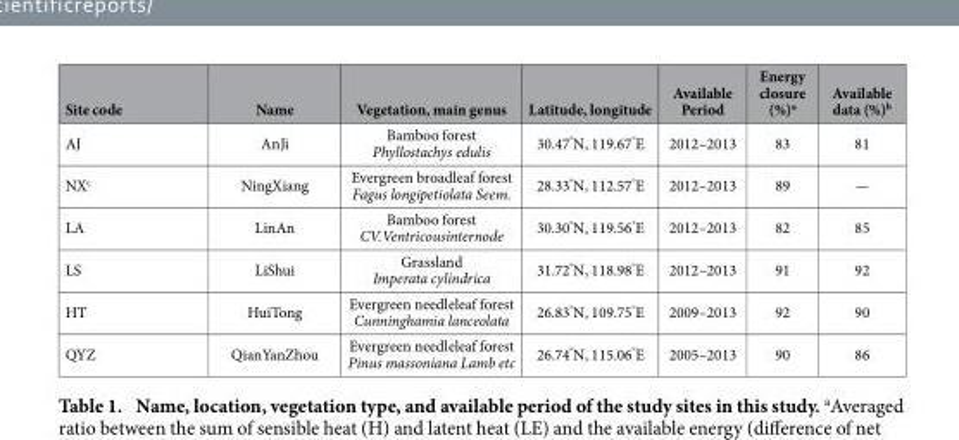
<table><thead><tr><td>Site code</td><td>Name</td><td>Vegetation, main genus</td><td>Latitude, longitude</td><td>Available Period</td><td>Energy closure (%)<sup>a</sup></td><td>Available data (%)<sup>b</sup></td></tr></thead><tbody><tr><td>AJ</td><td>AnJi</td><td>Bamboo forest Phyllostachys edulis</td><td>30.47<sup>°</sup>N, 119.67<sup>°</sup>E</td><td>2012–2013</td><td>83</td><td>81</td></tr><tr><td>NX<sup>c</sup></td><td>NingXiang</td><td>Evergreen broadleaf forest Fagus longipetiolata Seem.</td><td>28.33<sup>°</sup>N, 112.57<sup>°</sup>E</td><td>2012–2013</td><td>89</td><td>—</td></tr><tr><td>LA</td><td>LinAn</td><td>Bamboo forest CV.Ventricousinternode</td><td>30.30<sup>°</sup>N, 119.56<sup>°</sup>E</td><td>2012–2013</td><td>82</td><td>85</td></tr><tr><td>LS</td><td>LiShui</td><td>Grassland Imperata cylindrica</td><td>31.72<sup>°</sup>N, 118.98<sup>°</sup>E</td><td>2012–2013</td><td>91</td><td>92</td></tr><tr><td>HT</td><td>HuiTong</td><td>Evergreen needleleaf forest Cunninghamia lanceolata</td><td>26.83<sup>°</sup>N, 109.75<sup>°</sup>E</td><td>2009–2013</td><td>92</td><td>90</td></tr><tr><td>QYZ</td><td>QianYanZhou</td><td>Evergreen needleleaf forest Pinus massoniana Lamb etc</td><td>26.74<sup>°</sup>N, 115.06<sup>°</sup>E</td><td>2005–2013</td><td>90</td><td>86</td></tr></tbody></table>